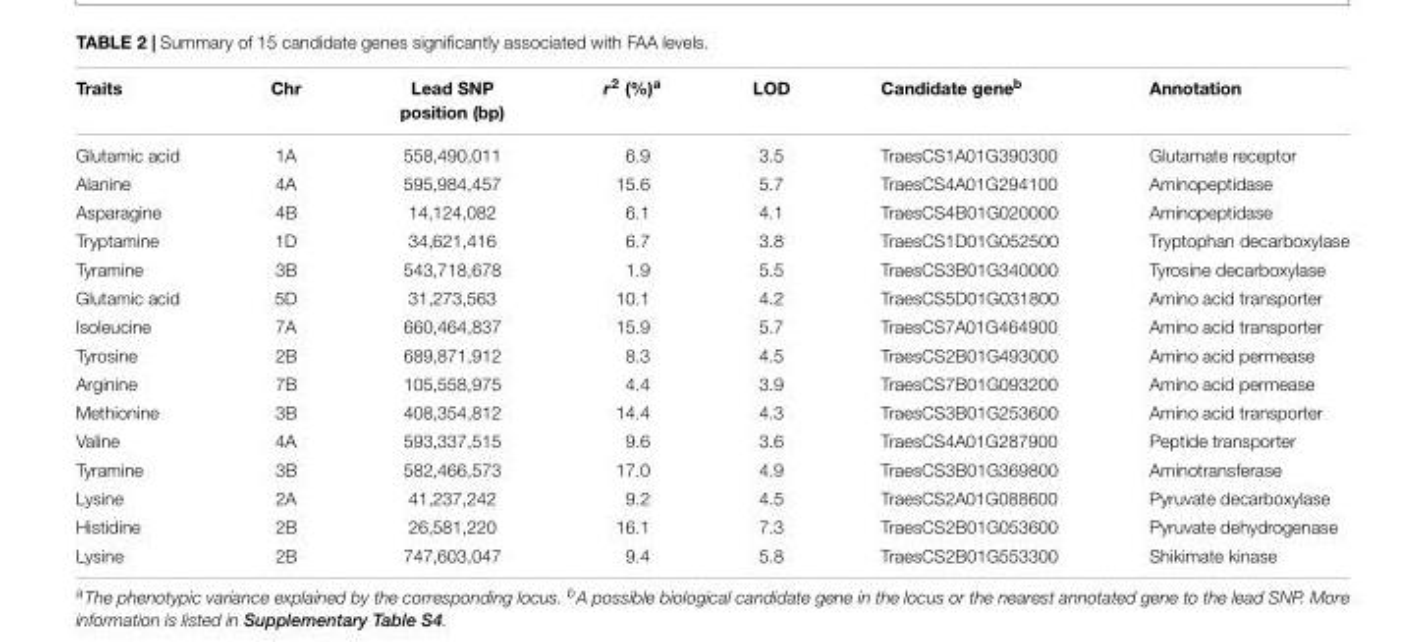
<table><thead><tr><td>Traits</td><td>Chr</td><td>Lead SNP position (bp)</td><td>r<sup>2</sup> (%)<sup>a</sup></td><td>LOD</td><td>Candidate gene<sup>b</sup></td><td>Annotation</td></tr></thead><tbody><tr><td>Glutamic acid</td><td>1A</td><td>558,490,011</td><td>6.9</td><td>3.5</td><td>TraesCS1A01G390300</td><td>Glutamate receptor</td></tr><tr><td>Alanine</td><td>4A</td><td>595,984,457</td><td>15.6</td><td>5.7</td><td>TraesCS4A01G294100</td><td>Aminopeptidase</td></tr><tr><td>Asparagine</td><td>4B</td><td>14,124,082</td><td>6.1</td><td>4.1</td><td>TraesCS4B01G020000</td><td>Aminopeptidase</td></tr><tr><td>Tryptamine</td><td>1D</td><td>34,621,416</td><td>6.7</td><td>3.8</td><td>TraesCS1D01G052500</td><td>Tryptophan decarboxylase</td></tr><tr><td>Tyramine</td><td>3B</td><td>543,718,678</td><td>1.9</td><td>5.5</td><td>TraesCS3B01G340000</td><td>Tyrosine decarboxylase</td></tr><tr><td>Glutamic acid</td><td>5D</td><td>31,273,563</td><td>10.1</td><td>4.2</td><td>TraesCS5D01G031800</td><td>Amino acid transporter</td></tr><tr><td>Isoleucine</td><td>7A</td><td>660,464,837</td><td>15.9</td><td>5.7</td><td>TraesCS7A01G464900</td><td>Amino acid transporter</td></tr><tr><td>Tyrosine</td><td>2B</td><td>689,871,912</td><td>8.3</td><td>4.5</td><td>TraesCS2B01G493000</td><td>Amino acid permease</td></tr><tr><td>Arginine</td><td>7B</td><td>105,558,975</td><td>4.4</td><td>3.9</td><td>TraesCS7B01G093200</td><td>Amino acid permease</td></tr><tr><td>Methionine</td><td>3B</td><td>408,354,812</td><td>14.4</td><td>4.3</td><td>TraesCS3B01G253600</td><td>Amino acid transporter</td></tr><tr><td>Valine</td><td>4A</td><td>593,337,515</td><td>9.6</td><td>3.6</td><td>TraesCS4A01G287900</td><td>Peptide transporter</td></tr><tr><td>Tyramine</td><td>3B</td><td>582,466,573</td><td>17.0</td><td>4.9</td><td>TraesCS3B01G369800</td><td>Aminotransferase</td></tr><tr><td>Lysine</td><td>2A</td><td>41,237,242</td><td>9.2</td><td>4.5</td><td>TraesCS2A01G088600</td><td>Pyruvate decarboxylase</td></tr><tr><td>Histidine</td><td>2B</td><td>26,581,220</td><td>16.1</td><td>7.3</td><td>TraesCS2B01G053600</td><td>Pyruvate dehydrogenase</td></tr><tr><td>Lysine</td><td>2B</td><td>747,603,047</td><td>9.4</td><td>5.8</td><td>TraesCS2B01G553300</td><td>Shikimate kinase</td></tr></tbody></table>